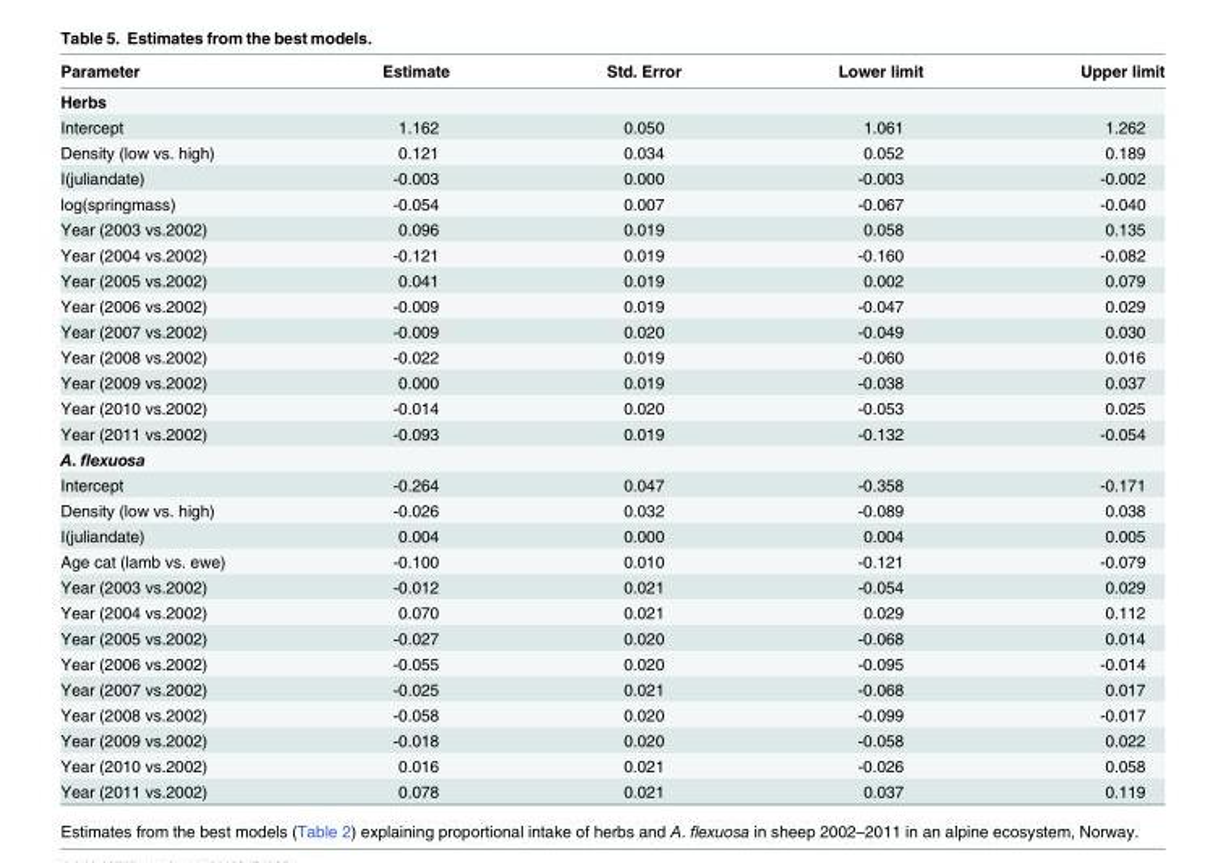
<table><thead><tr><td>Parameter</td><td>Estimate</td><td>Std. Error</td><td>Lower limit</td><td>Upper limit</td></tr></thead><tbody><tr><td colspan="5">Herbs</td></tr><tr><td>Intercept</td><td>1.162</td><td>0.050</td><td>1.061</td><td>1.262</td></tr><tr><td>Density (low vs. high)</td><td>0.121</td><td>0.034</td><td>0.052</td><td>0.189</td></tr><tr><td>I(juliandate)</td><td>-0.003</td><td>0.000</td><td>-0.003</td><td>-0.002</td></tr><tr><td>log(springmass)</td><td>-0.054</td><td>0.007</td><td>-0.067</td><td>-0.040</td></tr><tr><td>Year (2003 vs.2002)</td><td>0.096</td><td>0.019</td><td>0.058</td><td>0.135</td></tr><tr><td>Year (2004 vs.2002)</td><td>-0.121</td><td>0.019</td><td>-0.160</td><td>-0.082</td></tr><tr><td>Year (2005 vs.2002)</td><td>0.041</td><td>0.019</td><td>0.002</td><td>0.079</td></tr><tr><td>Year (2006 vs.2002)</td><td>-0.009</td><td>0.019</td><td>-0.047</td><td>0.029</td></tr><tr><td>Year (2007 vs.2002)</td><td>-0.009</td><td>0.020</td><td>-0.049</td><td>0.030</td></tr><tr><td>Year (2008 vs.2002)</td><td>-0.022</td><td>0.019</td><td>-0.060</td><td>0.016</td></tr><tr><td>Year (2009 vs.2002)</td><td>0.000</td><td>0.019</td><td>-0.038</td><td>0.037</td></tr><tr><td>Year (2010 vs.2002)</td><td>-0.014</td><td>0.020</td><td>-0.053</td><td>0.025</td></tr><tr><td>Year (2011 vs.2002)</td><td>-0.093</td><td>0.019</td><td>-0.132</td><td>-0.054</td></tr><tr><td colspan="5">A. flexuosa</td></tr><tr><td>Intercept</td><td>-0.264</td><td>0.047</td><td>-0.358</td><td>-0.171</td></tr><tr><td>Density (low vs. high)</td><td>-0.026</td><td>0.032</td><td>-0.089</td><td>0.038</td></tr><tr><td>I(juliandate)</td><td>0.004</td><td>0.000</td><td>0.004</td><td>0.005</td></tr><tr><td>Age cat (lamb vs. ewe)</td><td>-0.100</td><td>0.010</td><td>-0.121</td><td>-0.079</td></tr><tr><td>Year (2003 vs.2002)</td><td>-0.012</td><td>0.021</td><td>-0.054</td><td>0.029</td></tr><tr><td>Year (2004 vs.2002)</td><td>0.070</td><td>0.021</td><td>0.029</td><td>0.112</td></tr><tr><td>Year (2005 vs.2002)</td><td>-0.027</td><td>0.020</td><td>-0.068</td><td>0.014</td></tr><tr><td>Year (2006 vs.2002)</td><td>-0.055</td><td>0.020</td><td>-0.095</td><td>-0.014</td></tr><tr><td>Year (2007 vs.2002)</td><td>-0.025</td><td>0.021</td><td>-0.068</td><td>0.017</td></tr><tr><td>Year (2008 vs.2002)</td><td>-0.058</td><td>0.020</td><td>-0.099</td><td>-0.017</td></tr><tr><td>Year (2009 vs.2002)</td><td>-0.018</td><td>0.020</td><td>-0.058</td><td>0.022</td></tr><tr><td>Year (2010 vs.2002)</td><td>0.016</td><td>0.021</td><td>-0.026</td><td>0.058</td></tr><tr><td>Year (2011 vs.2002)</td><td>0.078</td><td>0.021</td><td>0.037</td><td>0.119</td></tr></tbody></table>